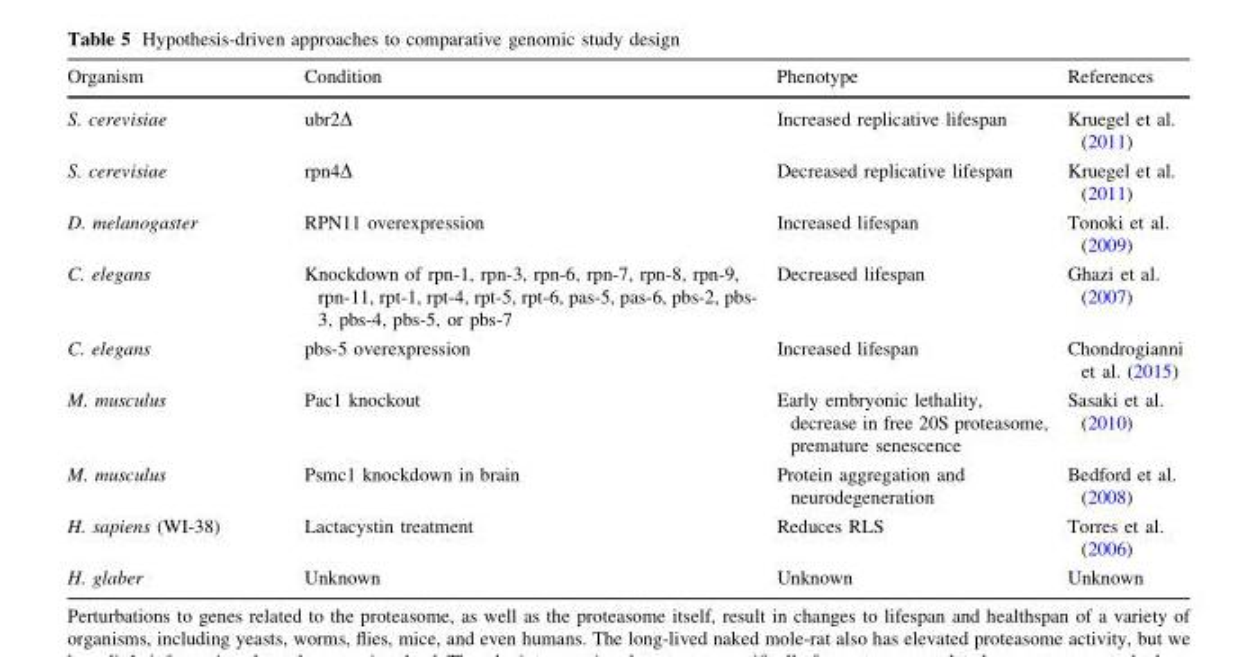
<table><thead><tr><td>Organism</td><td>Condition</td><td>Phenotype</td><td>References</td></tr></thead><tbody><tr><td>S. cerevisiae</td><td>ubr2∆</td><td>Increased replicative lifespan</td><td>Kruegel et al. (2011)</td></tr><tr><td>S. cerevisiae</td><td>rpn4∆</td><td>Decreased replicative lifespan</td><td>Kruegel et al. (2011)</td></tr><tr><td>D. melanogaster</td><td>RPN11 overexpression</td><td>Increased lifespan</td><td>Tonoki et al. (2009)</td></tr><tr><td>C. elegans</td><td>Knockdown of rpn-1, rpn-3, rpn-6, rpn-7, rpn-8, rpn-9, rpn-11, rpt-1, rpt-4, rpt-5, rpt-6, pas-5, pas-6, pbs-2, pbs- 3, pbs-4, pbs-5, or pbs-7</td><td>Decreased lifespan</td><td>Ghazi et al. (2007)</td></tr><tr><td>C. elegans</td><td>pbs-5 overexpression</td><td>Increased lifespan</td><td>Chondrogianni et al. (2015)</td></tr><tr><td>M. musculus</td><td>Pac1 knockout</td><td>Early embryonic lethality, decrease in free 20S proteasome, premature senescence</td><td>Sasaki et al. (2010)</td></tr><tr><td>M. musculus</td><td>Psmc1 knockdown in brain</td><td>Protein aggregation and neurodegeneration</td><td>Bedford et al. (2008)</td></tr><tr><td>H. sapiens (WI-38)</td><td>Lactacystin treatment</td><td>Reduces RLS</td><td>Torres et al. (2006)</td></tr><tr><td>H. glaber</td><td>Unknown</td><td>Unknown</td><td>Unknown</td></tr></tbody></table>